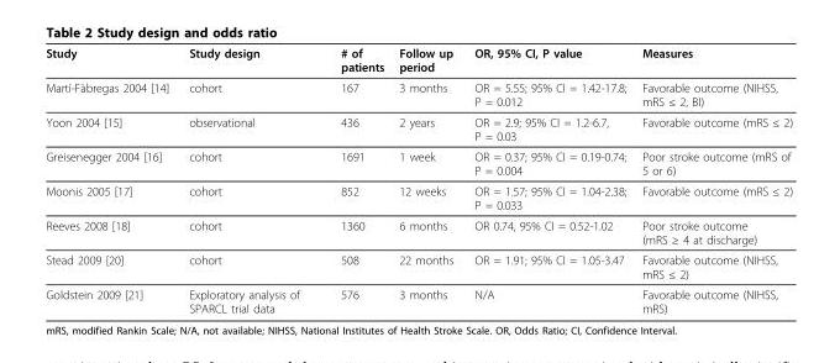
<table><thead><tr><td>Study</td><td>Study design</td><td># of patients</td><td>Follow up period</td><td>OR, 95% CI, P value</td><td>Measures</td></tr></thead><tbody><tr><td>Martí-Fàbregas 2004 [14]</td><td>cohort</td><td>167</td><td>3 months</td><td>OR = 5.55; 95% CI = 1.42-17.8; P = 0.012</td><td>Favorable outcome (NIHSS, mRS ≤ 2, BI)</td></tr><tr><td>Yoon 2004 [15]</td><td>observational</td><td>436</td><td>2 years</td><td>OR = 2.9; 95% CI = 1.2-6.7, P = 0.03</td><td>Favorable outcome (mRS ≤ 2)</td></tr><tr><td>Greisenegger 2004 [16]</td><td>cohort</td><td>1691</td><td>1 week</td><td>OR = 0.37; 95% CI = 0.19-0.74; P = 0.004</td><td>Poor stroke outcome (mRS of 5 or 6)</td></tr><tr><td>Moonis 2005 [17]</td><td>cohort</td><td>852</td><td>12 weeks</td><td>OR = 1.57; 95% CI = 1.04-2.38; P = 0.033</td><td>Favorable outcome (mRS ≤ 2)</td></tr><tr><td>Reeves 2008 [18]</td><td>cohort</td><td>1360</td><td>6 months</td><td>OR 0.74, 95% CI = 0.52-1.02</td><td>Poor stroke outcome (mRS ≥ 4 at discharge)</td></tr><tr><td>Stead 2009 [20]</td><td>cohort</td><td>508</td><td>22 months</td><td>OR = 1.91; 95% CI = 1.05-3.47</td><td>Favorable outcome (NIHSS, mRS ≤ 2)</td></tr><tr><td>Goldstein 2009 [21]</td><td>Exploratory analysis of SPARCL trial data</td><td>576</td><td>3 months</td><td>N/A</td><td>Favorable outcome (NIHSS, mRS)</td></tr></tbody></table>